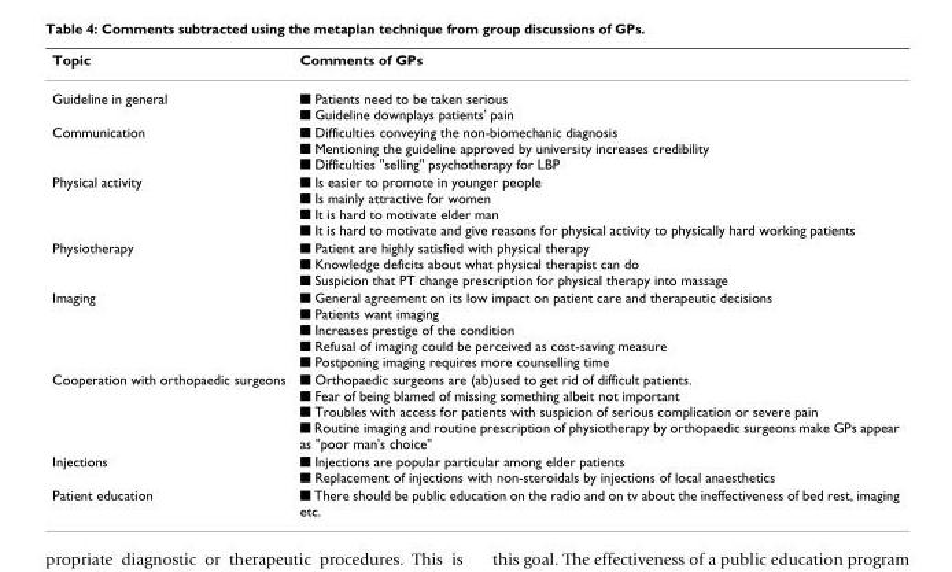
<table><thead><tr><td>Topic</td><td>Comments of GPs</td></tr></thead><tbody><tr><td>Guideline in general</td><td>■ Patients need to be taken serious ■ Guideline downplays patients&#x27; pain</td></tr><tr><td>Communication</td><td>■ Difficulties conveying the non-biomechanic diagnosis ■ Mentioning the guideline approved by university increases credibility ■ Difficulties &quot;selling&quot; psychotherapy for LBP</td></tr><tr><td>Physical activity</td><td>■ Is easier to promote in younger people ■ Is mainly attractive for women ■ It is hard to motivate elder man ■ It is hard to motivate and give reasons for physical activity to physically hard working patients</td></tr><tr><td>Physiotherapy</td><td>■ Patient are highly satisfied with physical therapy ■ Knowledge deficits about what physical therapist can do ■ Suspicion that PT change prescription for physical therapy into massage</td></tr><tr><td>Imaging</td><td>■ General agreement on its low impact on patient care and therapeutic decisions ■ Patients want imaging ■ Increases prestige of the condition ■ Refusal of imaging could be perceived as cost-saving measure ■ Postponing imaging requires more counselling time</td></tr><tr><td>Cooperation with orthopaedic surgeons</td><td>■ Orthopaedic surgeons are (ab)used to get rid of difficult patients. ■ Fear of being blamed of missing something albeit not important ■ Troubles with access for patients with suspicion of serious complication or severe pain ■ Routine imaging and routine prescription of physiotherapy by orthopaedic surgeons make GPs appear as &quot;poor man&#x27;s choice&quot;</td></tr><tr><td>Injections</td><td>■ Injections are popular particular among elder patients ■ Replacement of injections with non-steroidals by injections of local anaesthetics</td></tr><tr><td>Patient education</td><td>■ There should be public education on the radio and on tv about the ineffectiveness of bed rest, imaging etc.</td></tr></tbody></table>